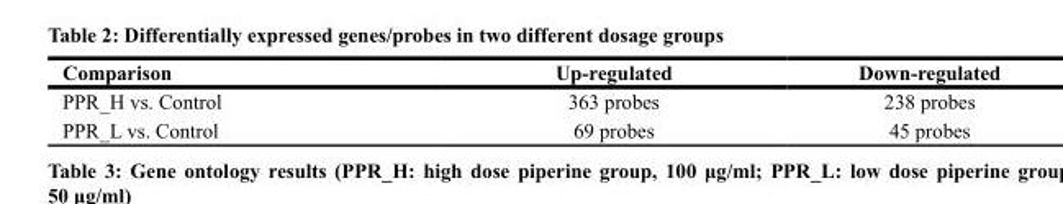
<table><thead><tr><td>Comparison</td><td>Up-regulated</td><td>Down-regulated</td></tr></thead><tbody><tr><td>PPR_H vs. Control</td><td>363 probes</td><td>238 probes</td></tr><tr><td>PPR_L vs. Control</td><td>69 probes</td><td>45 probes</td></tr></tbody></table>